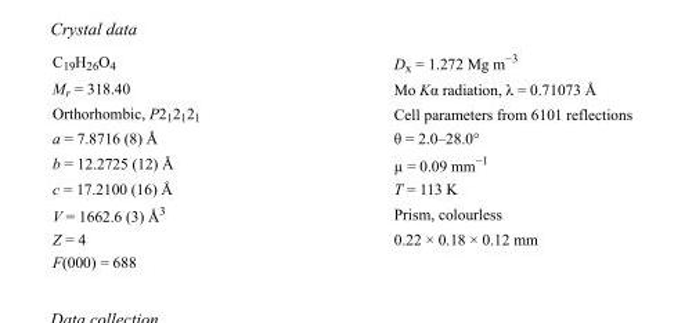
<table><tbody><tr><td>C<sub>19</sub>H<sub>26</sub>O<sub>4</sub></td><td>D<sub>x</sub> = 1.272 Mg m<sup>−3</sup></td></tr><tr><td>M<sub>r</sub> = 318.40</td><td>Mo Kα radiation, λ = 0.71073 Å</td></tr><tr><td>Orthorhombic, P2<sub>1</sub>2<sub>1</sub>2<sub>1</sub></td><td>Cell parameters from 6101 reflections</td></tr><tr><td>a = 7.8716 (8) Å</td><td>θ = 2.0–28.0°</td></tr><tr><td>b = 12.2725 (12) Å</td><td>µ = 0.09 mm<sup>−1</sup></td></tr><tr><td>c = 17.2100 (16) Å</td><td>T = 113 K</td></tr><tr><td>V = 1662.6 (3) Å<sup>3</sup></td><td>Prism, colourless</td></tr><tr><td>Z = 4</td><td>0.22 × 0.18 × 0.12 mm</td></tr><tr><td>F(000) = 688</td><td></td></tr></tbody></table>